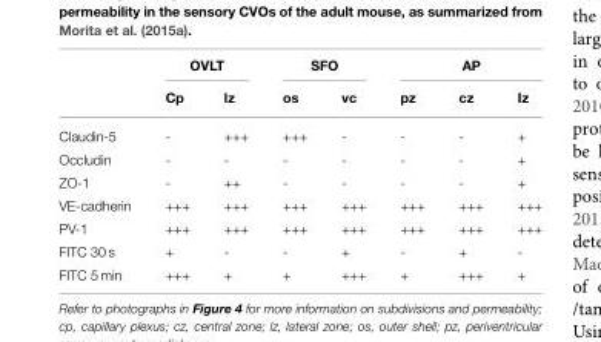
<table><thead><tr><td rowspan="2"></td><td colspan="2">OVLT</td><td colspan="2">SFO</td><td colspan="3">AP</td></tr><tr><td>Cp</td><td>lz</td><td>os</td><td>vc</td><td>pz</td><td>cz</td><td>Iz</td></tr></thead><tbody><tr><td>Claudin-5</td><td>-</td><td>+++</td><td>+++</td><td>-</td><td>-</td><td>-</td><td>+</td></tr><tr><td>Occludin</td><td>-</td><td>-</td><td>-</td><td>-</td><td>-</td><td>-</td><td>+</td></tr><tr><td>ZO-1</td><td>-</td><td>++</td><td>-</td><td>-</td><td>-</td><td>-</td><td>+</td></tr><tr><td>VE-cadherin</td><td>+++</td><td>+++</td><td>+++</td><td>+++</td><td>+++</td><td>+++</td><td>+++</td></tr><tr><td>PV-1</td><td>+++</td><td>+++</td><td>+++</td><td>+++</td><td>+++</td><td>+++</td><td>+++</td></tr><tr><td>FITC 30 s</td><td>+</td><td>-</td><td>-</td><td>+</td><td>-</td><td>+</td><td>-</td></tr><tr><td>FITC 5 min</td><td>+++</td><td>+</td><td>+</td><td>+++</td><td>+</td><td>+++</td><td>+</td></tr></tbody></table>